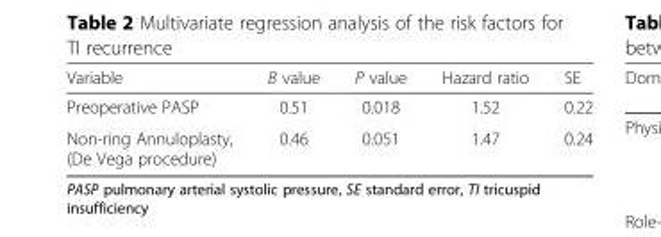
<table><thead><tr><td>Variable</td><td>B value</td><td>P value</td><td>Hazard ratio</td><td>SE</td></tr></thead><tbody><tr><td>Preoperative PASP</td><td>0.51</td><td>0.018</td><td>1.52</td><td>0.22</td></tr><tr><td>Non-ring Annuloplasty, (De Vega procedure)</td><td>0.46</td><td>0.051</td><td>1.47</td><td>0.24</td></tr></tbody></table>